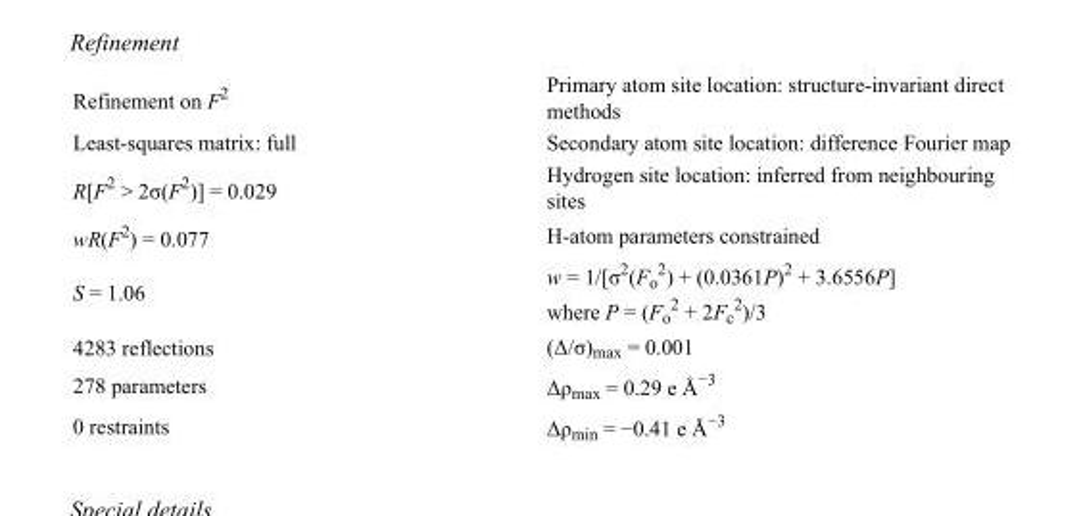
<table><tbody><tr><td>Refinement on F<sup>2</sup></td><td>Primary atom site location: structure-invariant direct methods</td></tr><tr><td>Least-squares matrix: full</td><td>Secondary atom site location: difference Fourier map</td></tr><tr><td>R[F<sup>2</sup> &gt; 2σ(F<sup>2</sup>)] = 0.029</td><td>Hydrogen site location: inferred from neighbouring sites</td></tr><tr><td>wR(F<sup>2</sup>) = 0.077</td><td>H-atom parameters constrained</td></tr><tr><td>S = 1.06</td><td>w = 1/[σ<sup>2</sup>(F<sub>o</sub> <sup>2</sup>) + (0.0361P)<sup>2</sup> + 3.6556P] where P = (F<sub>o</sub> <sup>2</sup> + 2F<sub>c</sub> <sup>2</sup>)/3</td></tr><tr><td>4283 reflections</td><td>(Δ/σ)<sub>max</sub> = 0.001</td></tr><tr><td>278 parameters</td><td>Δρ<sub>max</sub> = 0.29 e Å<sup>−3</sup></td></tr><tr><td>0 restraints</td><td>Δρ<sub>min</sub> = −0.41 e Å<sup>−3</sup></td></tr></tbody></table>